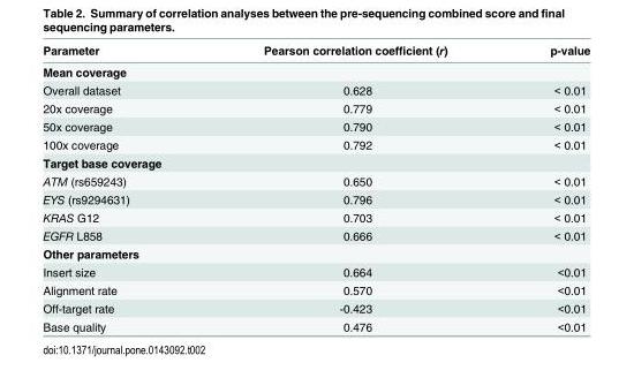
<table><thead><tr><td>Parameter</td><td>Pearson correlation coefficient (r)</td><td>p-value</td></tr></thead><tbody><tr><td colspan="3">Mean coverage</td></tr><tr><td>Overall dataset</td><td>0.628</td><td>&lt; 0.01</td></tr><tr><td>20x coverage</td><td>0.779</td><td>&lt; 0.01</td></tr><tr><td>50x coverage</td><td>0.790</td><td>&lt; 0.01</td></tr><tr><td>100x coverage</td><td>0.792</td><td>&lt; 0.01</td></tr><tr><td colspan="3">Target base coverage</td></tr><tr><td>ATM (rs659243)</td><td>0.650</td><td>&lt; 0.01</td></tr><tr><td>EYS (rs9294631)</td><td>0.796</td><td>&lt; 0.01</td></tr><tr><td>KRAS G12</td><td>0.703</td><td>&lt; 0.01</td></tr><tr><td>EGFR L858</td><td>0.666</td><td>&lt; 0.01</td></tr><tr><td colspan="3">Other parameters</td></tr><tr><td>Insert size</td><td>0.664</td><td>&lt;0.01</td></tr><tr><td>Alignment rate</td><td>0.570</td><td>&lt;0.01</td></tr><tr><td>Off-target rate</td><td>-0.423</td><td>&lt;0.01</td></tr><tr><td>Base quality</td><td>0.476</td><td>&lt;0.01</td></tr></tbody></table>